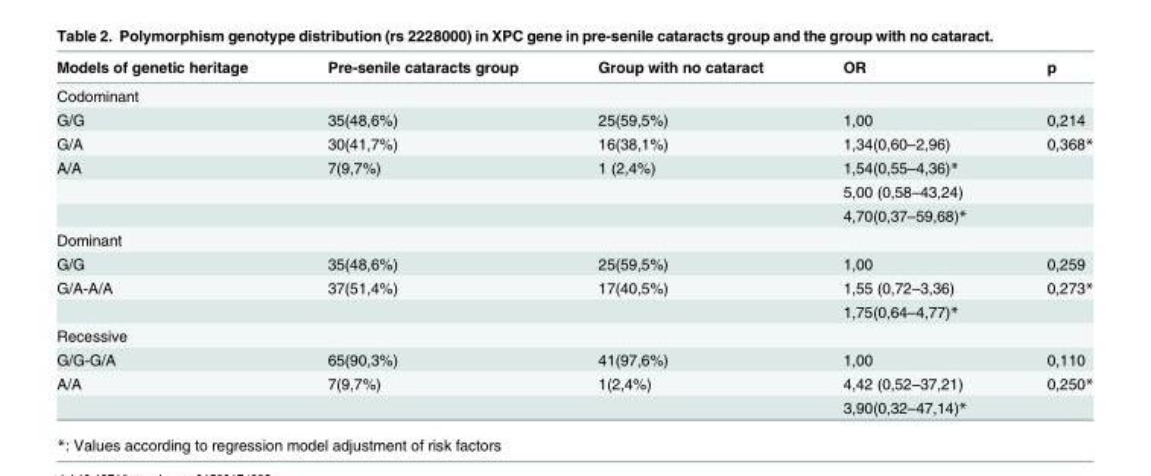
<table><thead><tr><td>Models of genetic heritage</td><td>Pre-senile cataracts group</td><td>Group with no cataract</td><td>OR</td><td>p</td></tr></thead><tbody><tr><td colspan="5">Codominant</td></tr><tr><td>G/G</td><td>35(48,6%)</td><td>25(59,5%)</td><td>1,00</td><td>0,214</td></tr><tr><td>G/A</td><td>30(41,7%)</td><td>16(38,1%)</td><td>1,34(0,60–2,96)</td><td>0,368*</td></tr><tr><td rowspan="3">A/A</td><td>7(9,7%)</td><td>1 (2,4%)</td><td>1,54(0,55–4,36)*</td><td></td></tr><tr><td></td><td></td><td>5,00 (0,58–43,24)</td><td></td></tr><tr><td></td><td></td><td>4,70(0,37–59,68)*</td><td></td></tr><tr><td colspan="5">Dominant</td></tr><tr><td>G/G</td><td>35(48,6%)</td><td>25(59,5%)</td><td>1,00</td><td>0,259</td></tr><tr><td rowspan="2">G/A-A/A</td><td>37(51,4%)</td><td>17(40,5%)</td><td>1,55 (0,72–3,36)</td><td>0,273*</td></tr><tr><td></td><td></td><td>1,75(0,64–4,77)*</td><td></td></tr><tr><td colspan="5">Recessive</td></tr><tr><td>G/G-G/A</td><td>65(90,3%)</td><td>41(97,6%)</td><td>1,00</td><td>0,110</td></tr><tr><td rowspan="2">A/A</td><td>7(9,7%)</td><td>1(2,4%)</td><td>4,42 (0,52–37,21)</td><td>0,250*</td></tr><tr><td></td><td></td><td>3,90(0,32–47,14)*</td><td></td></tr></tbody></table>